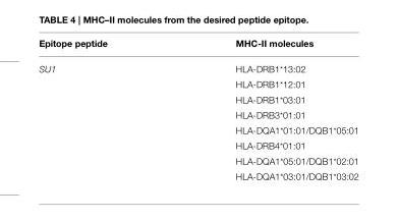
<table><thead><tr><td>Epitope peptide</td><td>MHC-II molecules</td></tr></thead><tbody><tr><td rowspan="8">SU1</td><td>HLA-DRB1*13:02</td></tr><tr><td>HLA-DRB1*12:01</td></tr><tr><td>HLA-DRB1*03:01</td></tr><tr><td>HLA-DRB3*01:01</td></tr><tr><td>HLA-DQA1*01:01/DQB1*05:01</td></tr><tr><td>HLA-DRB4*01:01</td></tr><tr><td>HLA-DQA1*05:01/DQB1*02:01</td></tr><tr><td>HLA-DQA1*03:01/DQB1*03:02</td></tr></tbody></table>